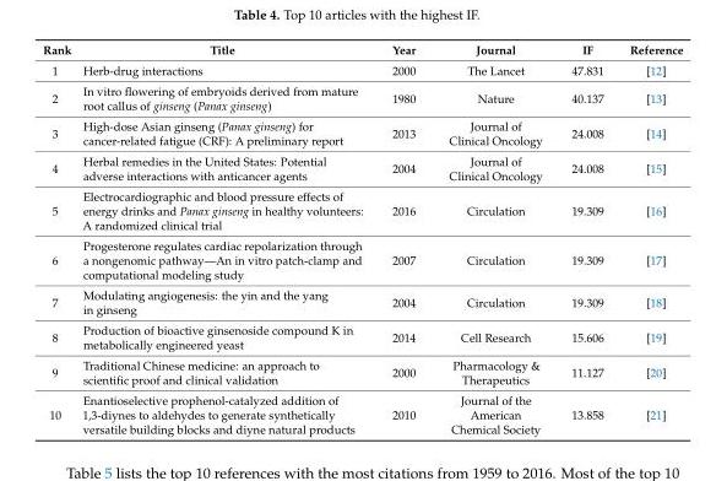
<table><thead><tr><td>Rank</td><td>Title</td><td>Year</td><td>Journal</td><td>IF</td><td>Reference</td></tr></thead><tbody><tr><td>1</td><td>Herb-drug interactions</td><td>2000</td><td>The Lancet</td><td>47.831</td><td>[12]</td></tr><tr><td>2</td><td>In vitro flowering of embryoids derived from mature root callus of ginseng (Panax ginseng)</td><td>1980</td><td>Nature</td><td>40.137</td><td>[13]</td></tr><tr><td>3</td><td>High-dose Asian ginseng (Panax ginseng) for cancer-related fatigue (CRF): A preliminary report</td><td>2013</td><td>Journal of Clinical Oncology</td><td>24.008</td><td>[14]</td></tr><tr><td>4</td><td>Herbal remedies in the United States: Potential adverse interactions with anticancer agents</td><td>2004</td><td>Journal of Clinical Oncology</td><td>24.008</td><td>[15]</td></tr><tr><td>5</td><td>Electrocardiographic and blood pressure effects of energy drinks and Panax ginseng in healthy volunteers: A randomized clinical trial</td><td>2016</td><td>Circulation</td><td>19.309</td><td>[16]</td></tr><tr><td>6</td><td>Progesterone regulates cardiac repolarization through a nongenomic pathway—An in vitro patch-clamp and computational modeling study</td><td>2007</td><td>Circulation</td><td>19.309</td><td>[17]</td></tr><tr><td>7</td><td>Modulating angiogenesis: the yin and the yang in ginseng</td><td>2004</td><td>Circulation</td><td>19.309</td><td>[18]</td></tr><tr><td>8</td><td>Production of bioactive ginsenoside compound K in metabolically engineered yeast</td><td>2014</td><td>Cell Research</td><td>15.606</td><td>[19]</td></tr><tr><td>9</td><td>Traditional Chinese medicine: an approach to scientific proof and clinical validation</td><td>2000</td><td>Pharmacology &amp; Therapeutics</td><td>11.127</td><td>[20]</td></tr><tr><td>10</td><td>Enantioselective prophenol-catalyzed addition of 1,3-diynes to aldehydes to generate synthetically versatile building blocks and diyne natural products</td><td>2010</td><td>Journal of the American Chemical Society</td><td>13.858</td><td>[21]</td></tr></tbody></table>